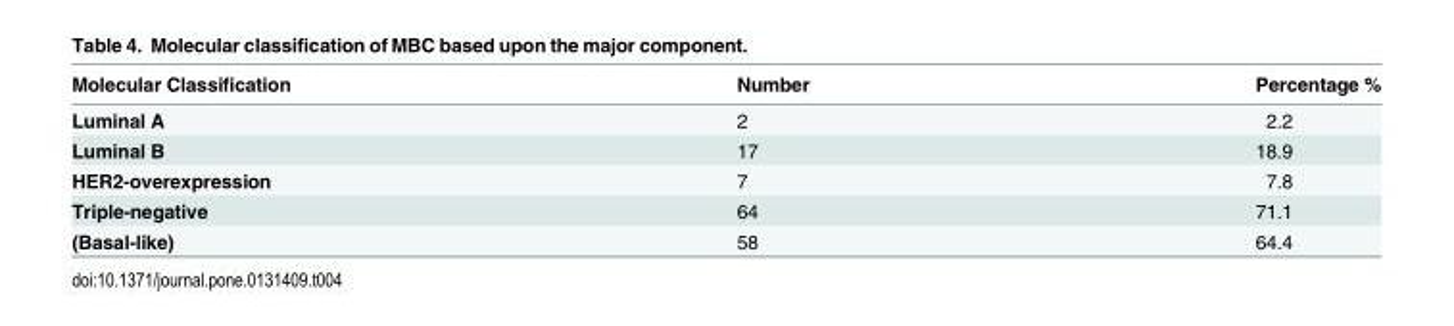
<table><thead><tr><td>Molecular Classification</td><td>Number</td><td>Percentage %</td></tr></thead><tbody><tr><td>Luminal A</td><td>2</td><td>2.2</td></tr><tr><td>Luminal B</td><td>17</td><td>18.9</td></tr><tr><td>HER2-overexpression</td><td>7</td><td>7.8</td></tr><tr><td>Triple-negative</td><td>64</td><td>71.1</td></tr><tr><td>(Basal-like)</td><td>58</td><td>64.4</td></tr></tbody></table>